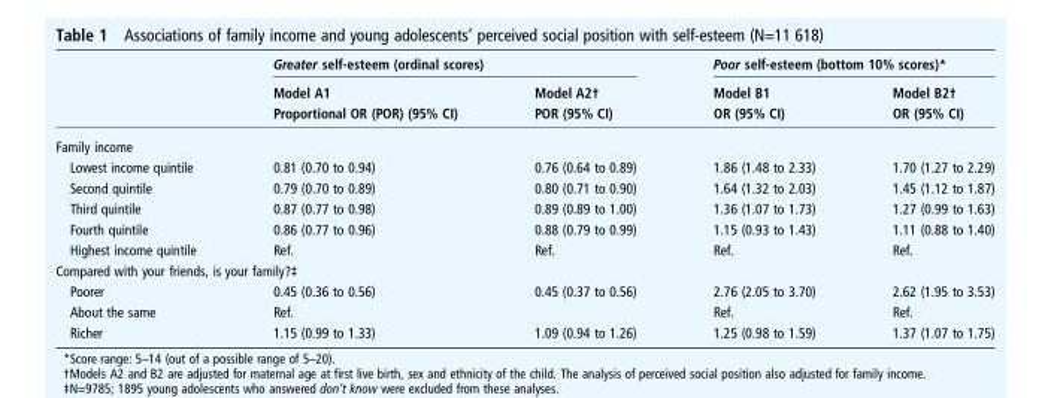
<table><thead><tr><td rowspan="3"></td><td colspan="2">Greater self-esteem (ordinal scores)</td><td colspan="2">Poor self-esteem (bottom 10% scores)*</td></tr><tr><td rowspan="2">Model A1 Proportional OR (POR) (95% CI)</td><td rowspan="2">Model A2† POR (95% CI)</td><td rowspan="2">Model B1 OR (95% CI)</td><td rowspan="2">Model B2† OR (95% CI)</td></tr><tr></tr></thead><tbody><tr><td colspan="5">Family income</td></tr><tr><td>Lowest income quintile</td><td>0.81 (0.70 to 0.94)</td><td>0.76 (0.64 to 0.89)</td><td>1.86 (1.48 to 2.33)</td><td>1.70 (1.27 to 2.29)</td></tr><tr><td>Second quintile</td><td>0.79 (0.70 to 0.89)</td><td>0.80 (0.71 to 0.90)</td><td>1.64 (1.32 to 2.03)</td><td>1.45 (1.12 to 1.87)</td></tr><tr><td>Third quintile</td><td>0.87 (0.77 to 0.98)</td><td>0.89 (0.89 to 1.00)</td><td>1.36 (1.07 to 1.73)</td><td>1.27 (0.99 to 1.63)</td></tr><tr><td>Fourth quintile</td><td>0.86 (0.77 to 0.96)</td><td>0.88 (0.79 to 0.99)</td><td>1.15 (0.93 to 1.43)</td><td>1.11 (0.88 to 1.40)</td></tr><tr><td>Highest income quintile</td><td>Ref.</td><td>Ref.</td><td>Ref.</td><td>Ref.</td></tr><tr><td colspan="5">Compared with your friends, is your family?‡</td></tr><tr><td>Poorer</td><td>0.45 (0.36 to 0.56)</td><td>0.45 (0.37 to 0.56)</td><td>2.76 (2.05 to 3.70)</td><td>2.62 (1.95 to 3.53)</td></tr><tr><td>About the same</td><td>Ref.</td><td></td><td>Ref.</td><td>Ref.</td></tr><tr><td>Richer</td><td>1.15 (0.99 to 1.33)</td><td>1.09 (0.94 to 1.26)</td><td>1.25 (0.98 to 1.59)</td><td>1.37 (1.07 to 1.75)</td></tr></tbody></table>